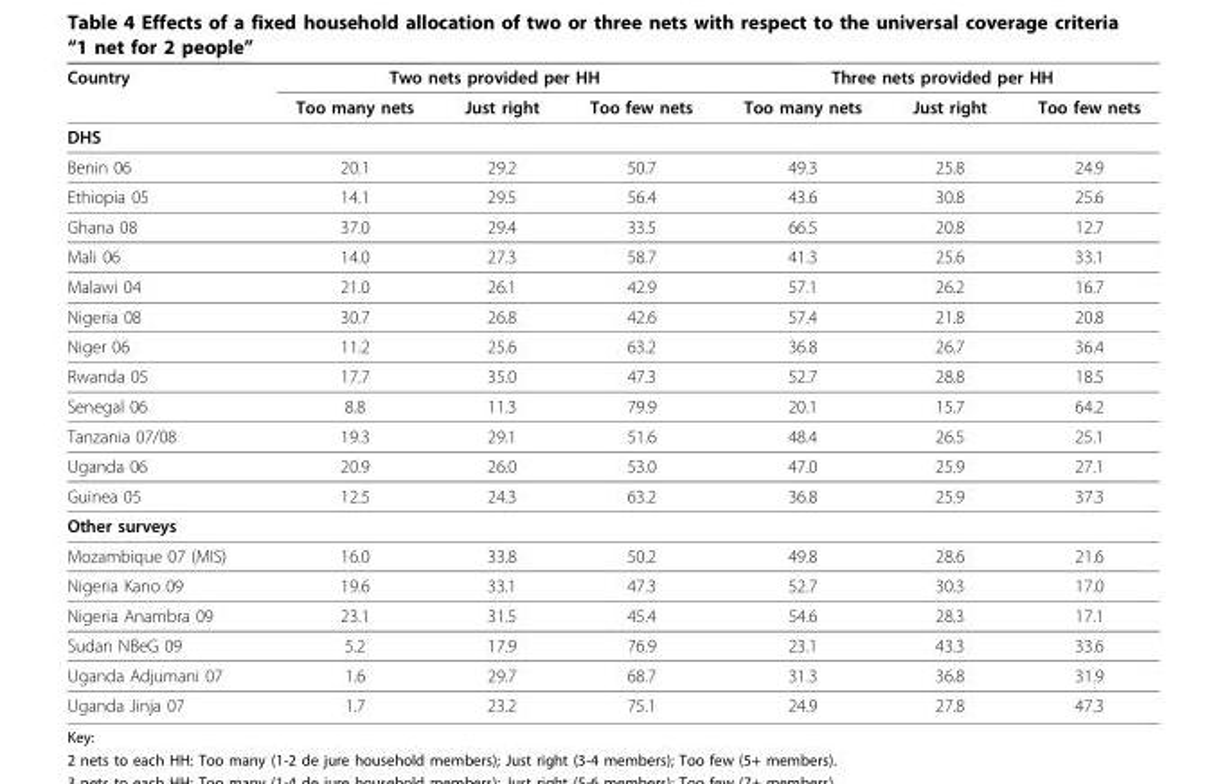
<table><thead><tr><td rowspan="2">Country</td><td colspan="3">Two nets provided per HH</td><td colspan="3">Three nets provided per HH</td></tr><tr><td>Too many nets</td><td>Just right</td><td>Too few nets</td><td>Too many nets</td><td>Just right</td><td>Too few nets</td></tr></thead><tbody><tr><td colspan="7">DHS</td></tr><tr><td>Benin 06</td><td>20.1</td><td>29.2</td><td>50.7</td><td>49.3</td><td>25.8</td><td>24.9</td></tr><tr><td>Ethiopia 05</td><td>14.1</td><td>29.5</td><td>56.4</td><td>43.6</td><td>30.8</td><td>25.6</td></tr><tr><td>Ghana 08</td><td>37.0</td><td>29.4</td><td>33.5</td><td>66.5</td><td>20.8</td><td>12.7</td></tr><tr><td>Mali 06</td><td>14.0</td><td>27.3</td><td>58.7</td><td>41.3</td><td>25.6</td><td>33.1</td></tr><tr><td>Malawi 04</td><td>21.0</td><td>26.1</td><td>42.9</td><td>57.1</td><td>26.2</td><td>16.7</td></tr><tr><td>Nigeria 08</td><td>30.7</td><td>26.8</td><td>42.6</td><td>57.4</td><td>21.8</td><td>20.8</td></tr><tr><td>Niger 06</td><td>11.2</td><td>25.6</td><td>63.2</td><td>36.8</td><td>26.7</td><td>36.4</td></tr><tr><td>Rwanda 05</td><td>17.7</td><td>35.0</td><td>47.3</td><td>52.7</td><td>28.8</td><td>18.5</td></tr><tr><td>Senegal 06</td><td>8.8</td><td>11.3</td><td>79.9</td><td>20.1</td><td>15.7</td><td>64.2</td></tr><tr><td>Tanzania 07/08</td><td>19.3</td><td>29.1</td><td>51.6</td><td>48.4</td><td>26.5</td><td>25.1</td></tr><tr><td>Uganda 06</td><td>20.9</td><td>26.0</td><td>53.0</td><td>47.0</td><td>25.9</td><td>27.1</td></tr><tr><td>Guinea 05</td><td>12.5</td><td>24.3</td><td>63.2</td><td>36.8</td><td>25.9</td><td>37.3</td></tr><tr><td colspan="7">Other surveys</td></tr><tr><td>Mozambique 07 (MIS)</td><td>16.0</td><td>33.8</td><td>50.2</td><td>49.8</td><td>28.6</td><td>21.6</td></tr><tr><td>Nigeria Kano 09</td><td>19.6</td><td>33.1</td><td>47.3</td><td>52.7</td><td>30.3</td><td>17.0</td></tr><tr><td>Nigeria Anambra 09</td><td>23.1</td><td>31.5</td><td>45.4</td><td>54.6</td><td>28.3</td><td>17.1</td></tr><tr><td>Sudan NBeG 09</td><td>5.2</td><td>17.9</td><td>76.9</td><td>23.1</td><td>43.3</td><td>33.6</td></tr><tr><td>Uganda Adjumani 07</td><td>1.6</td><td>29.7</td><td>68.7</td><td>31.3</td><td>36.8</td><td>31.9</td></tr><tr><td>Uganda Jinja 07</td><td>1.7</td><td>23.2</td><td>75.1</td><td>24.9</td><td>27.8</td><td>47.3</td></tr></tbody></table>